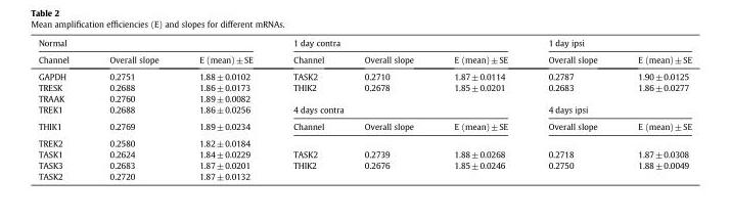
<table><thead><tr><td colspan="3">Normal</td><td colspan="3">1 day contra</td><td colspan="2">1 day ipsi</td></tr><tr><td>Channel</td><td>Overall slope</td><td>E (mean)±SE</td><td>Channel</td><td>Overall slope</td><td>E (mean)±SE</td><td>Overall slope</td><td>E (mean)±SE</td></tr></thead><tbody><tr><td>GAPDH</td><td>0.2751</td><td>1.88±0.0102</td><td>TASK2</td><td>0.2710</td><td>1.87±0.0114</td><td>0.2787</td><td>1.90±0.0125</td></tr><tr><td>TRESK</td><td>0.2688</td><td>1.86±0.0173</td><td>THIK2</td><td>0.2678</td><td>1.85±0.0201</td><td>0.2683</td><td>1.86±0.0277</td></tr><tr><td>TRAAK</td><td>0.2760</td><td>1.89±0.0082</td><td></td><td></td><td></td><td></td><td></td></tr><tr><td>TREK1</td><td>0.2688</td><td>1.86±0.0256</td><td colspan="3">4 days contra</td><td colspan="2">4 days ipsi</td></tr><tr><td>THIK1</td><td>0.2769</td><td>1.89±0.0234</td><td>Channel</td><td>Overall slope</td><td>E (mean)±SE</td><td>Overall slope</td><td>E (mean)±SE</td></tr><tr><td>TREK2</td><td>0.2580</td><td>1.82±0.0184</td><td colspan="5"></td></tr><tr><td>TASK1</td><td>0.2624</td><td>1.84±0.0229</td><td>TASK2</td><td>0.2739</td><td>1.88±0.0268</td><td>0.2718</td><td>1.87±0.0308</td></tr><tr><td>TASK3</td><td>0.2683</td><td>1.87±0.0201</td><td>THIK2</td><td>0.2676</td><td>1.85±0.0246</td><td>0.2750</td><td>1.88±0.0049</td></tr><tr><td>TASK2</td><td>0.2720</td><td>1.87±0.0132</td><td></td><td></td><td></td><td></td><td></td></tr></tbody></table>